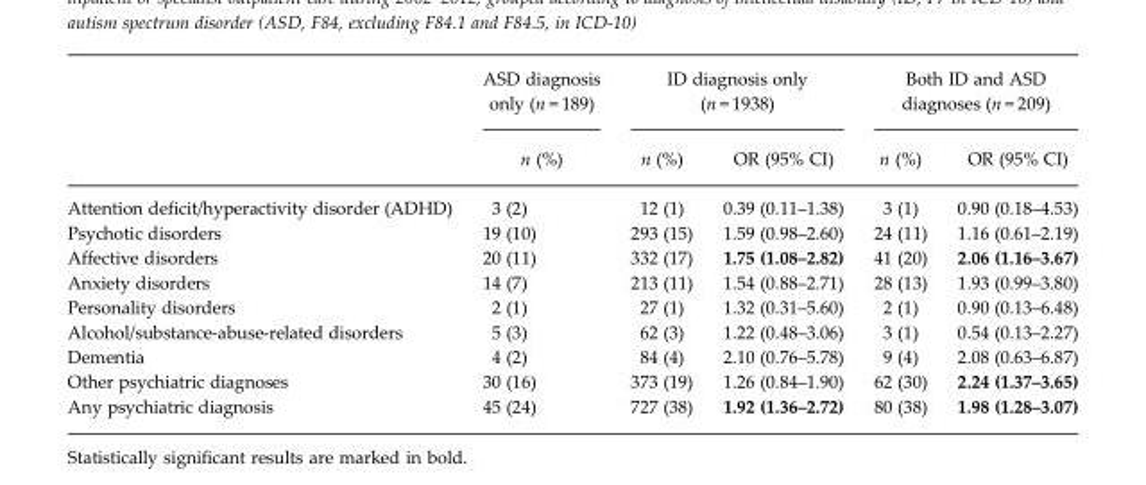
<table><thead><tr><td rowspan="2"></td><td rowspan="2">ASD diagnosis only (n = 189) n (%)</td><td colspan="2">ID diagnosis only (n = 1938)</td><td colspan="2">Both ID and ASD diagnoses (n = 209)</td></tr><tr><td>n (%)</td><td>OR (95% CI)</td><td>n (%)</td><td>OR (95% CI)</td></tr></thead><tbody><tr><td>Attention deficit/hyperactivity disorder (ADHD)</td><td>3 (2)</td><td>12 (1)</td><td>0.39 (0.11–1.38)</td><td>3 (1)</td><td>0.90 (0.18–4.53)</td></tr><tr><td>Psychotic disorders</td><td>19 (10)</td><td>293 (15)</td><td>1.59 (0.98–2.60)</td><td>24 (11)</td><td>1.16 (0.61–2.19)</td></tr><tr><td>Affective disorders</td><td>20 (11)</td><td>332 (17)</td><td>1.75 (1.08–2.82)</td><td>41 (20)</td><td>2.06 (1.16–3.67)</td></tr><tr><td>Anxiety disorders</td><td>14 (7)</td><td>213 (11)</td><td>1.54 (0.88–2.71)</td><td>28 (13)</td><td>1.93 (0.99–3.80)</td></tr><tr><td>Personality disorders</td><td>2 (1)</td><td>27 (1)</td><td>1.32 (0.31–5.60)</td><td>2 (1)</td><td>0.90 (0.13–6.48)</td></tr><tr><td>Alcohol/substance-abuse-related disorders</td><td>5 (3)</td><td>62 (3)</td><td>1.22 (0.48–3.06)</td><td>3 (1)</td><td>0.54 (0.13–2.27)</td></tr><tr><td>Dementia</td><td>4 (2)</td><td>84 (4)</td><td>2.10 (0.76–5.78)</td><td>9 (4)</td><td>2.08 (0.63–6.87)</td></tr><tr><td>Other psychiatric diagnoses</td><td>30 (16)</td><td>373 (19)</td><td>1.26 (0.84–1.90)</td><td>62 (30)</td><td>2.24 (1.37–3.65)</td></tr><tr><td>Any psychiatric diagnosis</td><td>45 (24)</td><td>727 (38)</td><td>1.92 (1.36–2.72)</td><td>80 (38)</td><td>1.98 (1.28–3.07)</td></tr></tbody></table>